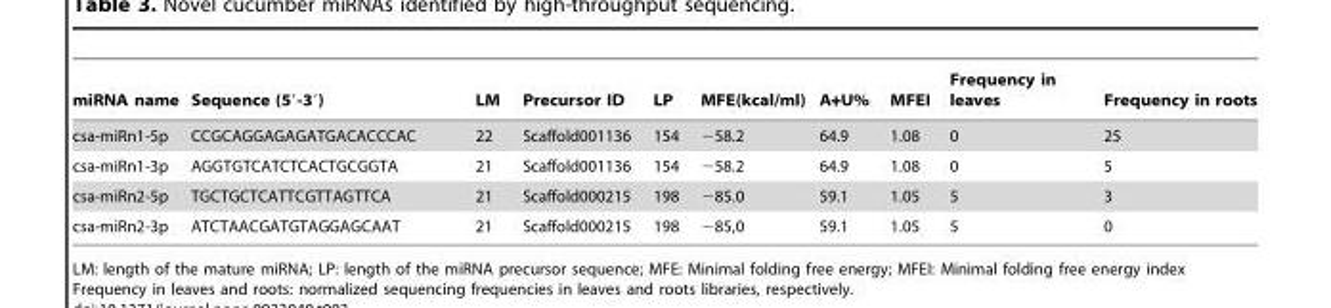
<table><thead><tr><td>miRNA name</td><td>Sequence (5′-3′)</td><td>LM</td><td>Precursor ID</td><td>LP</td><td>MFE(kcal/ml)</td><td>A+U%</td><td>MFEI</td><td>Frequency in leaves</td><td>Frequency in roots</td></tr></thead><tbody><tr><td>csa-miRn1-5p</td><td>CCGCAGGAGAGATGACACCCAC</td><td>22</td><td>Scaffold001136</td><td>154</td><td>−58.2</td><td>64.9</td><td>1.08</td><td>0</td><td>25</td></tr><tr><td>csa-miRn1-3p</td><td>AGGTGTCATCTCACTGCGGTA</td><td>21</td><td>Scaffold001136</td><td>154</td><td>−58.2</td><td>64.9</td><td>1.08</td><td>0</td><td>5</td></tr><tr><td>csa-miRn2-5p</td><td>TGCTGCTCATTCGTTAGTTCA</td><td>21</td><td>Scaffold000215</td><td>198</td><td>−85.0</td><td>59.1</td><td>1.05</td><td>5</td><td>3</td></tr><tr><td>csa-miRn2-3p</td><td>ATCTAACGATGTAGGAGCAAT</td><td>21</td><td>Scaffold000215</td><td>198</td><td>−85,0</td><td>59.1</td><td>1.05</td><td>5</td><td>0</td></tr></tbody></table>